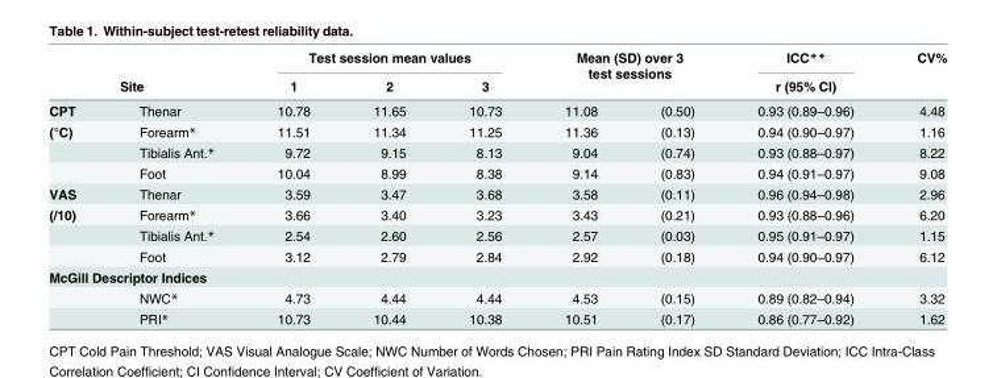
<table><thead><tr><td></td><td></td><td colspan="3">Test session mean values</td><td rowspan="2" colspan="2">Mean (SD) over 3 test sessions</td><td rowspan="3">ICC** r (95% CI) 0.93 (0.89–0.96)</td><td rowspan="3">CV% 4.48</td></tr><tr><td colspan="2">Site</td><td rowspan="2">1 10.78</td><td rowspan="2">2 11.65</td><td rowspan="2">3 10.73</td></tr><tr><td>CPT</td><td>Thenar</td><td>11.08</td><td>(0.50)</td></tr></thead><tbody><tr><td rowspan="3">(°C)</td><td>Forearm*</td><td>11.51</td><td>11.34</td><td>11.25</td><td>11.36</td><td>(0.13)</td><td>0.94 (0.90–0.97)</td><td>1.16</td></tr><tr><td>Tibialis Ant.*</td><td>9.72</td><td>9.15</td><td>8.13</td><td>9.04</td><td>(0.74)</td><td>0.93 (0.88–0.97)</td><td>8.22</td></tr><tr><td>Foot</td><td>10.04</td><td>8.99</td><td>8.38</td><td>9.14</td><td>(0.83)</td><td>0.94 (0.91–0.97)</td><td>9.08</td></tr><tr><td>VAS</td><td>Thenar</td><td>3.59</td><td>3.47</td><td>3.68</td><td>3.58</td><td>(0.11)</td><td>0.96 (0.94–0.98)</td><td>2.96</td></tr><tr><td rowspan="3">(/10)</td><td>Forearm*</td><td>3.66</td><td>3.40</td><td>3.23</td><td>3.43</td><td>(0.21)</td><td>0.93 (0.88–0.96)</td><td>6.20</td></tr><tr><td>Tibialis Ant.*</td><td>2.54</td><td>2.60</td><td>2.56</td><td>2.57</td><td>(0.03)</td><td>0.95 (0.91–0.97)</td><td>1.15</td></tr><tr><td>Foot</td><td>3.12</td><td>2.79</td><td>2.84</td><td>2.92</td><td>(0.18)</td><td>0.94 (0.90–0.97)</td><td>6.12</td></tr><tr><td colspan="9">McGill Descriptor Indices</td></tr><tr><td></td><td>NWC*</td><td>4.73</td><td>4.44</td><td>4.44</td><td>4.53</td><td>(0.15)</td><td>0.89 (0.82–0.94)</td><td>3.32</td></tr><tr><td></td><td>PRI*</td><td>10.73</td><td>10.44</td><td>10.38</td><td>10.51</td><td>(0.17)</td><td>0.86 (0.77–0.92)</td><td>1.62</td></tr></tbody></table>